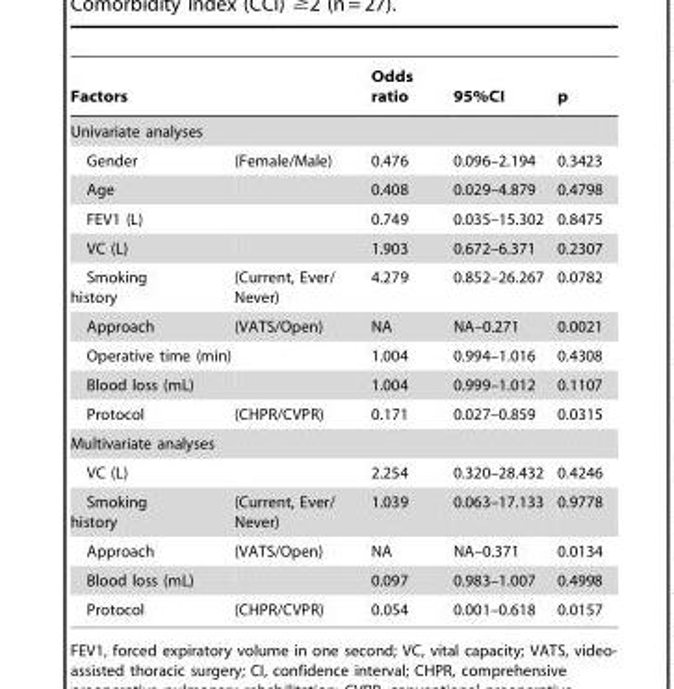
<table><thead><tr><td colspan="2">Factors</td><td>Odds ratio</td><td>95%CI</td><td>p</td></tr><tr><td colspan="5">Univariate analyses</td></tr><tr><td>Gender</td><td>(Female/Male)</td><td>0.476</td><td>0.096–2.194</td><td>0.3423</td></tr></thead><tbody><tr><td>Age</td><td></td><td>0.408</td><td>0.029–4.879</td><td>0.4798</td></tr><tr><td>FEV1 (L)</td><td></td><td>0.749</td><td>0.035–15.302</td><td>0.8475</td></tr><tr><td>VC (L)</td><td></td><td>1.903</td><td>0.672–6.371</td><td>0.2307</td></tr><tr><td>Smoking history</td><td>(Current, Ever/ Never)</td><td>4.279</td><td>0.852–26.267</td><td>0.0782</td></tr><tr><td>Approach</td><td>(VATS/Open)</td><td>NA</td><td>NA–0.271</td><td>0.0021</td></tr><tr><td>Operative time (min)</td><td></td><td>1.004</td><td>0.994–1.016</td><td>0.4308</td></tr><tr><td>Blood loss (mL)</td><td></td><td>1.004</td><td>0.999–1.012</td><td>0.1107</td></tr><tr><td>Protocol</td><td>(CHPR/CVPR)</td><td>0.171</td><td>0.027–0.859</td><td>0.0315</td></tr><tr><td colspan="5">Multivariate analyses</td></tr><tr><td>VC (L)</td><td></td><td>2.254</td><td>0.320–28.432</td><td>0.4246</td></tr><tr><td>Smoking history</td><td>(Current, Ever/ Never)</td><td>1.039</td><td>0.063–17.133</td><td>0.9778</td></tr><tr><td>Approach</td><td>(VATS/Open)</td><td>NA</td><td>NA–0.371</td><td>0.0134</td></tr><tr><td>Blood loss (mL)</td><td></td><td>0.097</td><td>0.983–1.007</td><td>0.4998</td></tr><tr><td>Protocol</td><td>(CHPR/CVPR)</td><td>0.054</td><td>0.001–0.618</td><td>0.0157</td></tr></tbody></table>